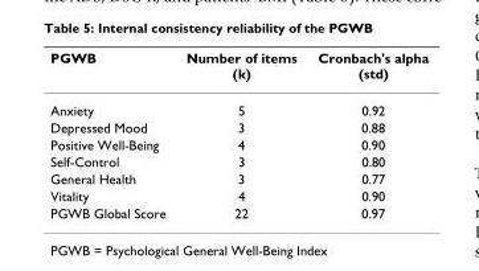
<table><thead><tr><td>PGWB</td><td>Number of items (k)</td><td>Cronbach&#x27;s alpha (std)</td></tr></thead><tbody><tr><td>Anxiety</td><td>5</td><td>0.92</td></tr><tr><td>Depressed Mood</td><td>3</td><td>0.88</td></tr><tr><td>Positive Well-Being</td><td>4</td><td>0.90</td></tr><tr><td>Self-Control</td><td>3</td><td>0.80</td></tr><tr><td>General Health</td><td>3</td><td>0.77</td></tr><tr><td>Vitality</td><td>4</td><td>0.90</td></tr><tr><td>PGWB Global Score</td><td>22</td><td>0.97</td></tr></tbody></table>